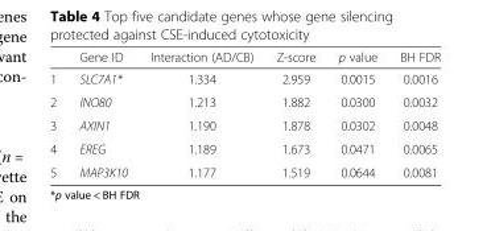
<table><thead><tr><td></td><td>Gene ID</td><td>Interaction (AD/CB)</td><td>Z-score</td><td>p value</td><td>BH FDR</td></tr></thead><tbody><tr><td>1</td><td>SLC7A1*</td><td>1.334</td><td>2.959</td><td>0.0015</td><td>0.0016</td></tr><tr><td>2</td><td>INO80</td><td>1.213</td><td>1.882</td><td>0.0300</td><td>0.0032</td></tr><tr><td>3</td><td>AXIN1</td><td>1.190</td><td>1.878</td><td>0.0302</td><td>0.0048</td></tr><tr><td>4</td><td>EREG</td><td>1.189</td><td>1.673</td><td>0.0471</td><td>0.0065</td></tr><tr><td>5</td><td>MAP3K10</td><td>1.177</td><td>1.519</td><td>0.0644</td><td>0.0081</td></tr></tbody></table>